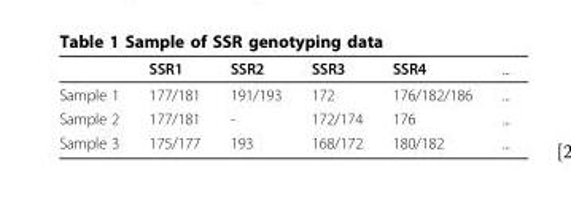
<table><thead><tr><td></td><td>SSR1</td><td>SSR2</td><td>SSR3</td><td>SSR4</td><td>...</td></tr></thead><tbody><tr><td>Sample 1</td><td>177/181</td><td>191/193</td><td>172</td><td>176/182/186</td><td>...</td></tr><tr><td>Sample 2</td><td>177/181</td><td>-</td><td>172/174</td><td>176</td><td>...</td></tr><tr><td>Sample 3</td><td>175/177</td><td>193</td><td>168/172</td><td>180/182</td><td>...</td></tr></tbody></table>